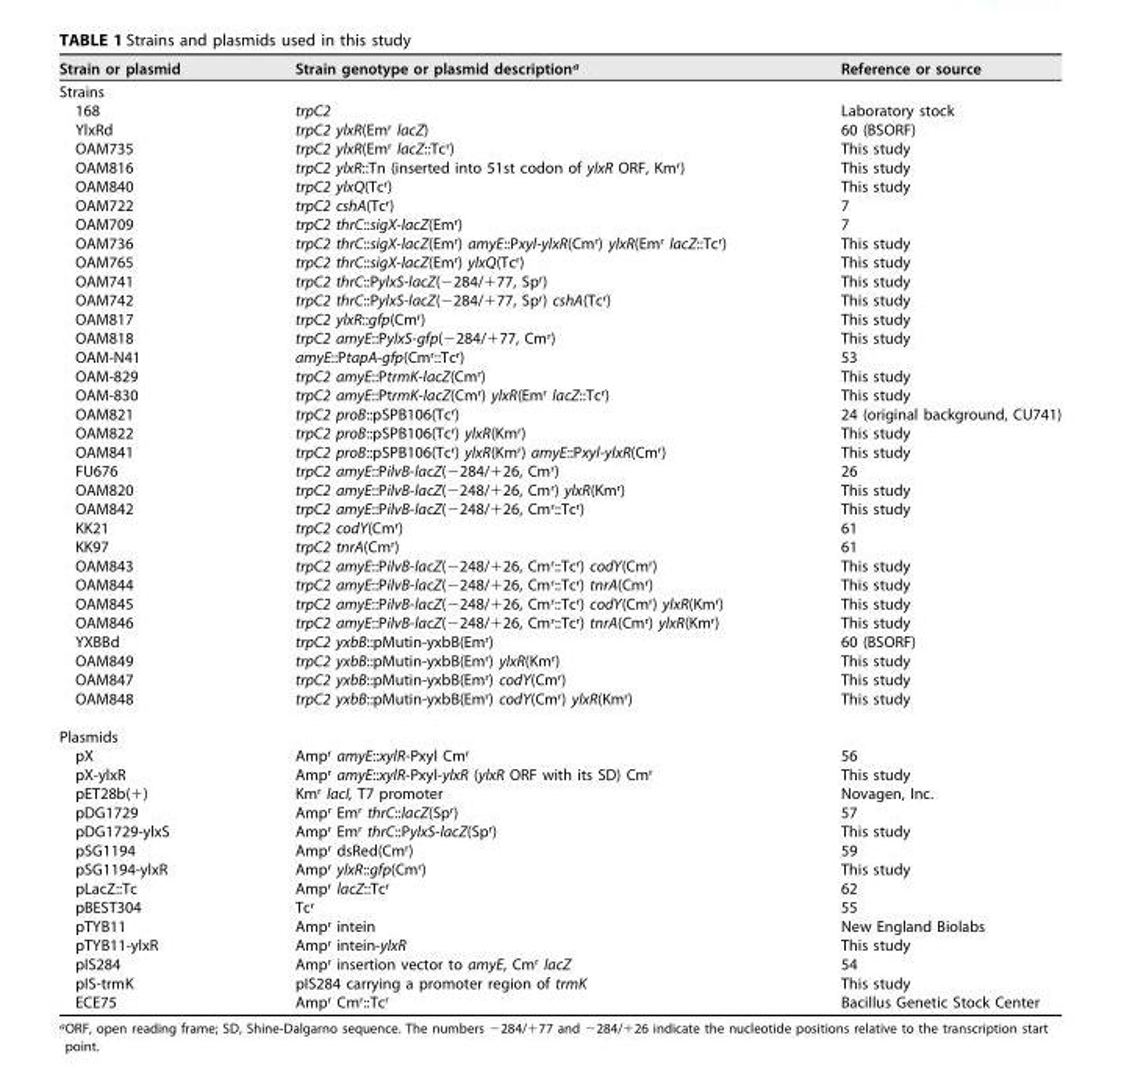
<table><thead><tr><td>Strain or plasmid</td><td>Strain genotype or plasmid description<sup>a</sup></td><td>Reference or source</td></tr></thead><tbody><tr><td colspan="3">Strains</td></tr><tr><td>168</td><td>trpC2</td><td>Laboratory stock</td></tr><tr><td>YlxRd</td><td>trpC2 ylxR(Em<sup>r</sup> lacZ)</td><td>60 (BSORF)</td></tr><tr><td>OAM735</td><td>trpC2 ylxR(Em<sup>r</sup> lacZ::Tc<sup>r</sup>)</td><td>This study</td></tr><tr><td>OAM816</td><td>trpC2 ylxR::Tn (inserted into 51st codon of ylxR ORF, Km<sup>r</sup>)</td><td>This study</td></tr><tr><td>OAM840</td><td>trpC2 ylxQ(Tc<sup>r</sup>)</td><td>This study</td></tr><tr><td>OAM722</td><td>trpC2 cshA(Tc<sup>r</sup>)</td><td>7</td></tr><tr><td>OAM709</td><td>trpC2 thrC::sigX-lacZ(Em<sup>r</sup>)</td><td>7</td></tr><tr><td>OAM736</td><td>trpC2 thrC::sigX-lacZ(Em<sup>r</sup>) amyE::Pxyl-ylxR(Cm<sup>r</sup>) ylxR(Em<sup>r</sup> lacZ::Tc<sup>r</sup>)</td><td>This study</td></tr><tr><td>OAM765</td><td>trpC2 thrC::sigX-lacZ(Em<sup>r</sup>) ylxQ(Tc<sup>r</sup>)</td><td>This study</td></tr><tr><td>OAM741</td><td>trpC2 thrC::PylxS-lacZ(−284/+77, Sp<sup>r</sup>)</td><td>This study</td></tr><tr><td>OAM742</td><td>trpC2 thrC::PylxS-lacZ(−284/+77, Sp<sup>r</sup>) cshA(Tc<sup>r</sup>)</td><td>This study</td></tr><tr><td>OAM817</td><td>trpC2 ylxR::gfp(Cm<sup>r</sup>)</td><td>This study</td></tr><tr><td>OAM818</td><td>trpC2 amyE::PylxS-gfp(−284/+77, Cm<sup>r</sup>)</td><td>This study</td></tr><tr><td>OAM-N41</td><td>amyE::PtapA-gfp(Cm<sup>r</sup>::Tc<sup>r</sup>)</td><td>53</td></tr><tr><td>OAM-829</td><td>trpC2 amyE::PtrmK-lacZ(Cm<sup>r</sup>)</td><td>This study</td></tr><tr><td>OAM-830</td><td>trpC2 amyE::PtrmK-lacZ(Cm<sup>r</sup>) ylxR(Em<sup>r</sup> lacZ::Tc<sup>r</sup>)</td><td>This study</td></tr><tr><td>OAM821</td><td>trpC2 proB::pSPB106(Tc<sup>r</sup>)</td><td>24 (original background, CU741)</td></tr><tr><td>OAM822</td><td>trpC2 proB::pSPB106(Tc<sup>r</sup>) ylxR(Km<sup>r</sup>)</td><td>This study</td></tr><tr><td>OAM841</td><td>trpC2 proB::pSPB106(Tc<sup>r</sup>) ylxR(Km<sup>r</sup>) amyE::Pxyl-ylxR(Cm<sup>r</sup>)</td><td>This study</td></tr><tr><td>FU676</td><td>trpC2 amyE::PilvB-lacZ(−284/+26, Cm<sup>r</sup>)</td><td>26</td></tr><tr><td>OAM820</td><td>trpC2 amyE::PilvB-lacZ(−248/+26, Cm<sup>r</sup>) ylxR(Km<sup>r</sup>)</td><td>This study</td></tr><tr><td>OAM842</td><td>trpC2 amyE::PilvB-lacZ(−248/+26, Cm<sup>r</sup>::Tc<sup>r</sup>)</td><td>This study</td></tr><tr><td>KK21</td><td>trpC2 codY(Cm<sup>r</sup>)</td><td>61</td></tr><tr><td>KK97</td><td>trpC2 tnrA(Cm<sup>r</sup>)</td><td>61</td></tr><tr><td>OAM843</td><td>trpC2 amyE::PilvB-lacZ(−248/+26, Cm<sup>r</sup>::Tc<sup>r</sup>) codY(Cm<sup>r</sup>)</td><td>This study</td></tr><tr><td>OAM844</td><td>trpC2 amyE::PilvB-lacZ(−248/+26, Cm<sup>r</sup>::Tc<sup>r</sup>) tnrA(Cm<sup>r</sup>)</td><td>This study</td></tr><tr><td>OAM845</td><td>trpC2 amyE::PilvB-lacZ(−248/+26, Cm<sup>r</sup>::Tc<sup>r</sup>) codY(Cm<sup>r</sup>) ylxR(Km<sup>r</sup>)</td><td>This study</td></tr><tr><td>OAM846</td><td>trpC2 amyE::PilvB-lacZ(−248/+26, Cm<sup>r</sup>::Tc<sup>r</sup>) tnrA(Cm<sup>r</sup>) ylxR(Km<sup>r</sup>)</td><td>This study</td></tr><tr><td>YXBBd</td><td>trpC2 yxbB::pMutin-yxbB(Em<sup>r</sup>)</td><td>60 (BSORF)</td></tr><tr><td>OAM849</td><td>trpC2 yxbB::pMutin-yxbB(Em<sup>r</sup>) ylxR(Km<sup>r</sup>)</td><td>This study</td></tr><tr><td>OAM847</td><td>trpC2 yxbB::pMutin-yxbB(Em<sup>r</sup>) codY(Cm<sup>r</sup>)</td><td>This study</td></tr><tr><td>OAM848</td><td>trpC2 yxbB::pMutin-yxbB(Em<sup>r</sup>) codY(Cm<sup>r</sup>) ylxR(Km<sup>r</sup>)</td><td>This study</td></tr><tr><td colspan="3">Plasmids</td></tr><tr><td>pX</td><td>Amp<sup>r</sup> amyE::xylR-Pxyl Cm<sup>r</sup></td><td>56</td></tr><tr><td>pX-ylxR</td><td>Amp<sup>r</sup> amyE::xylR-Pxyl-ylxR (ylxR ORF with its SD) Cm<sup>r</sup></td><td>This study</td></tr><tr><td>pET28b(+)</td><td>Km<sup>r</sup> lacI, T7 promoter</td><td>Novagen, Inc.</td></tr><tr><td>pDG1729</td><td>Amp<sup>r</sup> Em<sup>r</sup> thrC::lacZ(Sp<sup>r</sup>)</td><td>57</td></tr><tr><td>pDG1729-ylxS</td><td>Amp<sup>r</sup> Em<sup>r</sup> thrC::PylxS-lacZ(Sp<sup>r</sup>)</td><td>This study</td></tr><tr><td>pSG1194</td><td>Amp<sup>r</sup> dsRed(Cm<sup>r</sup>)</td><td>59</td></tr><tr><td>pSG1194-ylxR</td><td>Amp<sup>r</sup> ylxR::gfp(Cm<sup>r</sup>)</td><td>This study</td></tr><tr><td>pLacZ::Tc</td><td>Amp<sup>r</sup> lacZ::Tc<sup>r</sup></td><td>62</td></tr><tr><td>pBEST304</td><td>Tc<sup>r</sup></td><td>55</td></tr><tr><td>pTYB11</td><td>Amp<sup>r</sup> intein</td><td>New England Biolabs</td></tr><tr><td>pTYB11-ylxR</td><td>Amp<sup>r</sup> intein-ylxR</td><td>This study</td></tr><tr><td>pIS284</td><td>Amp<sup>r</sup> insertion vector to amyE, Cm<sup>r</sup> lacZ</td><td>54</td></tr><tr><td>pIS-trmK</td><td>pIS284 carrying a promoter region of trmK</td><td>This study</td></tr><tr><td>ECE75</td><td>Amp<sup>r</sup> Cm<sup>r</sup>::Tc<sup>r</sup></td><td>Bacillus Genetic Stock Center</td></tr></tbody></table>